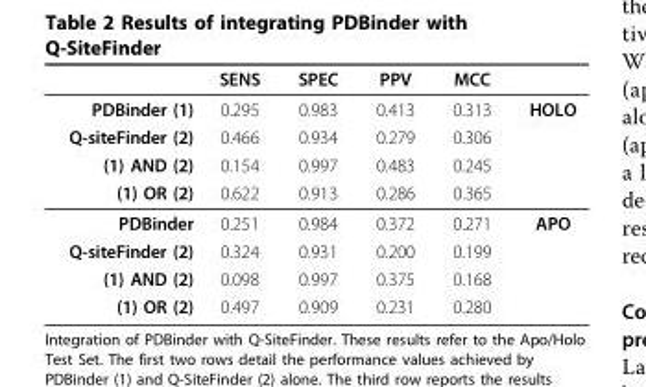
<table><thead><tr><td></td><td>SENS</td><td>SPEC</td><td>PPV</td><td>MCC</td><td></td></tr></thead><tbody><tr><td>PDBinder (1)</td><td>0.295</td><td>0.983</td><td>0.413</td><td>0.313</td><td>HOLO</td></tr><tr><td>Q-siteFinder (2)</td><td>0.466</td><td>0.934</td><td>0.279</td><td>0.306</td><td></td></tr><tr><td>(1) AND (2)</td><td>0.154</td><td>0.997</td><td>0.483</td><td>0.245</td><td></td></tr><tr><td>(1) OR (2)</td><td>0.622</td><td>0.913</td><td>0.286</td><td>0.365</td><td></td></tr><tr><td>PDBinder</td><td>0.251</td><td>0.984</td><td>0.372</td><td>0.271</td><td>APO</td></tr><tr><td>Q-siteFinder (2)</td><td>0.324</td><td>0.931</td><td>0.200</td><td>0.199</td><td></td></tr><tr><td>(1) AND (2)</td><td>0.098</td><td>0.997</td><td>0.375</td><td>0.168</td><td></td></tr><tr><td>(1) OR (2)</td><td>0.497</td><td>0.909</td><td>0.231</td><td>0.280</td><td></td></tr></tbody></table>